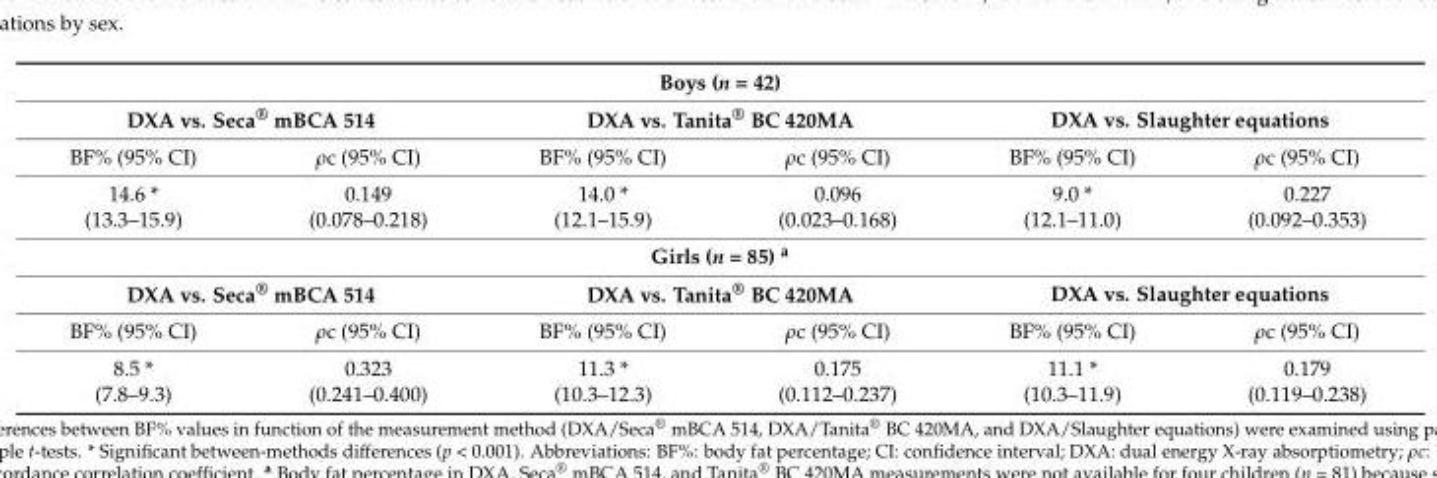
<table><tbody><tr><td colspan="6">Boys (n = 42)</td></tr><tr><td colspan="2">DXA vs. Seca<sup>®</sup> mBCA 514</td><td colspan="2">DXA vs. Tanita<sup>®</sup> BC 420MA</td><td colspan="2">DXA vs. Slaughter equations</td></tr><tr><td>BF% (95% CI)</td><td>ρc (95% CI)</td><td>BF% (95% CI)</td><td>ρc (95% CI)</td><td>BF% (95% CI)</td><td>ρc (95% CI)</td></tr><tr><td>14.6 *</td><td>0.149</td><td>14.0 *</td><td>0.096</td><td>9.0 *</td><td>0.227</td></tr><tr><td>(13.3–15.9)</td><td>(0.078–0.218)</td><td>(12.1–15.9)</td><td>(0.023–0.168)</td><td>(12.1–11.0)</td><td>(0.092–0.353)</td></tr><tr><td colspan="6">Girls (n = 85) <sup>a</sup></td></tr><tr><td colspan="2">DXA vs. Seca<sup>®</sup> mBCA 514</td><td colspan="2">DXA vs. Tanita<sup>®</sup> BC 420MA</td><td colspan="2">DXA vs. Slaughter equations</td></tr><tr><td>BF% (95% CI)</td><td>ρc (95% CI)</td><td>BF% (95% CI)</td><td>ρc (95% CI)</td><td>BF% (95% CI)</td><td>ρc (95% CI)</td></tr><tr><td>8.5 *</td><td>0.323</td><td>11.3 *</td><td>0.175</td><td>11.1 *</td><td>0.179</td></tr><tr><td>(7.8–9.3)</td><td>(0.241–0.400)</td><td>(10.3–12.3)</td><td>(0.112–0.237)</td><td>(10.3–11.9)</td><td>(0.119–0.238)</td></tr></tbody></table>